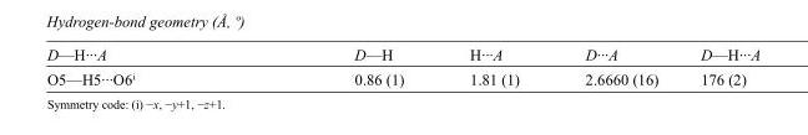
<table><tbody><tr><td>D—H···A</td><td>D—H</td><td>H···A</td><td>D···A</td><td>D—H···A</td></tr><tr><td>O5—H5···O6<sup>i</sup></td><td>0.86 (1)</td><td>1.81 (1)</td><td>2.6660 (16)</td><td>176 (2)</td></tr></tbody></table>